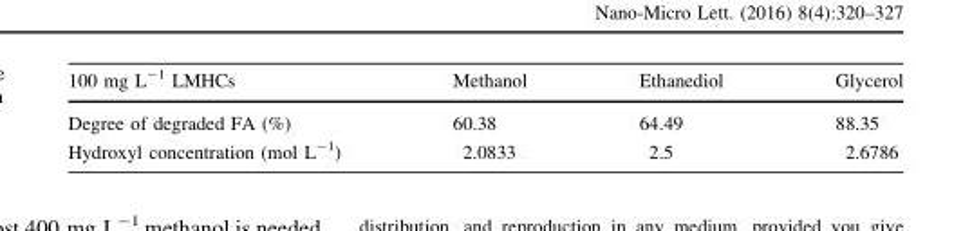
<table><thead><tr><td>100 mg L<sup>-1</sup> LMHCs</td><td>Methanol</td><td>Ethanediol</td><td>Glycerol</td></tr></thead><tbody><tr><td>Degree of degraded FA (%)</td><td>60.38</td><td>64.49</td><td>88.35</td></tr><tr><td>Hydroxyl concentration (mol L<sup>-1</sup>)</td><td>2.0833</td><td>2.5</td><td>2.6786</td></tr></tbody></table>